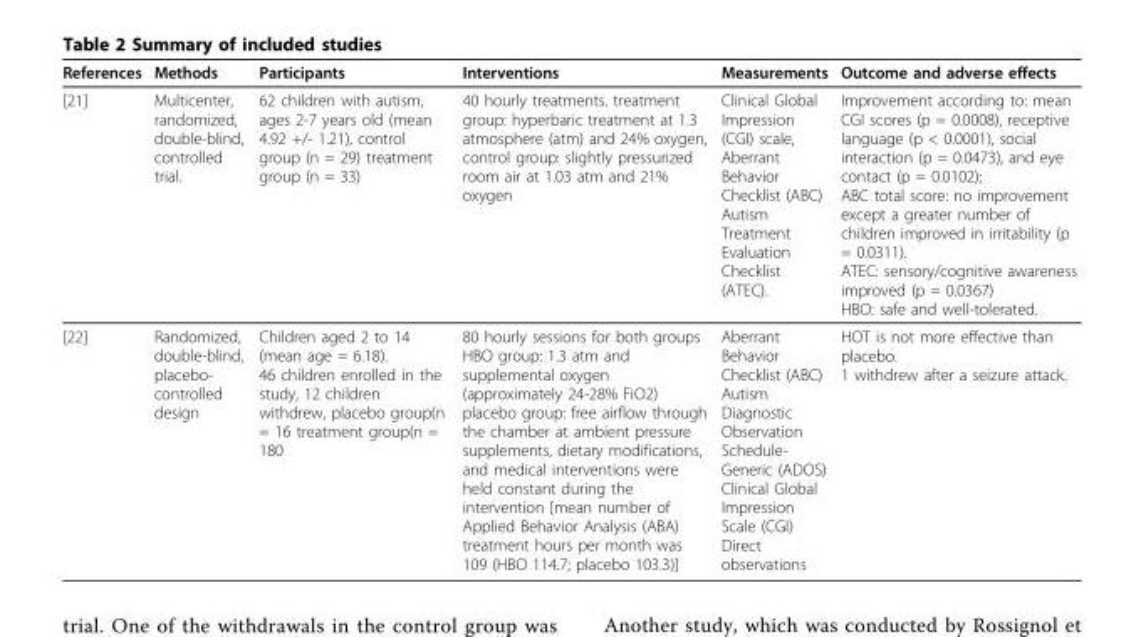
<table><thead><tr><td>References</td><td>Methods</td><td>Participants</td><td>Interventions</td><td>Measurements</td><td>Outcome and adverse effects</td></tr></thead><tbody><tr><td>[21]</td><td>Multicenter, randomized, double-blind, controlled trial.</td><td>62 children with autism, ages 2-7 years old (mean 4.92 +/- 1.21), control group (n = 29) treatment group (n = 33)</td><td>40 hourly treatments. treatment group: hyperbaric treatment at 1.3 atmosphere (atm) and 24% oxygen, control group: slightly pressurized room air at 1.03 atm and 21% oxygen</td><td>Clinical Global Impression (CGI) scale, Aberrant Behavior Checklist (ABC) Autism Treatment Evaluation Checklist (ATEC).</td><td>Improvement according to: mean CGI scores (p = 0.0008), receptive language (p &lt; 0.0001), social interaction (p = 0.0473), and eye contact (p = 0.0102); ABC total score: no improvement except a greater number of children improved in irritability (p = 0.0311). ATEC: sensory/cognitive awareness improved (p = 0.0367) HBO: safe and well-tolerated.</td></tr><tr><td>[22]</td><td>Randomized, double-blind, placebo- controlled design</td><td>Children aged 2 to 14 (mean age = 6.18). 46 children enrolled in the study, 12 children withdrew, placebo group(n = 16 treatment group(n = 180</td><td>80 hourly sessions for both groups HBO group: 1.3 atm and supplemental oxygen (approximately 24-28% FiO2) placebo group: free airflow through the chamber at ambient pressure supplements, dietary modifications, and medical interventions were held constant during the intervention [mean number of Applied Behavior Analysis (ABA) treatment hours per month was 109 (HBO 114.7; placebo 103.3)]</td><td>Aberrant Behavior Checklist (ABC) Autism Diagnostic Observation Schedule- Generic (ADOS) Clinical Global Impression Scale (CGI) Direct observations</td><td>HOT is not more effective than placebo. 1 withdrew after a seizure attack.</td></tr></tbody></table>